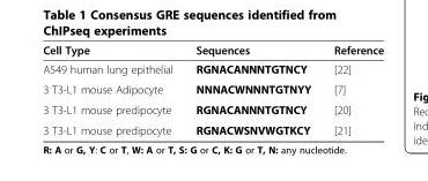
<table><thead><tr><td>Cell Type</td><td>Sequences</td><td>Reference</td></tr></thead><tbody><tr><td>A549 human lung epithelial</td><td>RGNACANNNTGTNCY</td><td>[22]</td></tr><tr><td>3 T3-L1 mouse Adipocyte</td><td>NNNACWNNNTGTNYY</td><td>[7]</td></tr><tr><td>3 T3-L1 mouse predipocyte</td><td>RGNACANNNTGTNCY</td><td>[20]</td></tr><tr><td>3 T3-L1 mouse predipocyte</td><td>RGNACWSNVWGTKCY</td><td>[21]</td></tr></tbody></table>